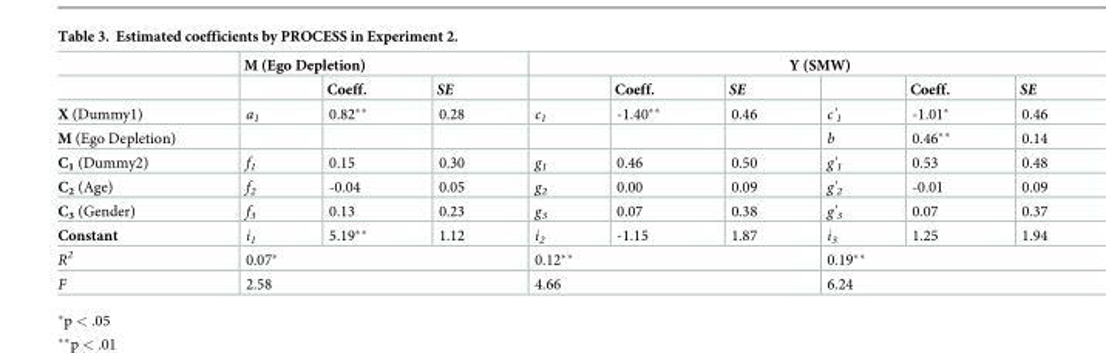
<table><thead><tr><td rowspan="2"></td><td colspan="3">M (Ego Depletion)</td><td colspan="6">Y (SMW)</td></tr><tr><td></td><td>Coeff.</td><td>SE</td><td></td><td>Coeff.</td><td>SE</td><td></td><td>Coeff.</td><td>SE</td></tr></thead><tbody><tr><td>X (Dummy1)</td><td>a<sub>1</sub></td><td>0.82**</td><td>0.28</td><td>c<sub>1</sub></td><td>-1.40**</td><td>0.46</td><td>c&#x27;<sub>1</sub></td><td>-1.01*</td><td>0.46</td></tr><tr><td>M (Ego Depletion)</td><td></td><td></td><td></td><td></td><td></td><td></td><td>b</td><td>0.46**</td><td>0.14</td></tr><tr><td>C<sub>1</sub> (Dummy2)</td><td>f<sub>1</sub></td><td>0.15</td><td>0.30</td><td>g<sub>1</sub></td><td>0.46</td><td>0.50</td><td>g&#x27;<sub>1</sub></td><td>0.53</td><td>0.48</td></tr><tr><td>C<sub>2</sub> (Age)</td><td>f<sub>2</sub></td><td>-0.04</td><td>0.05</td><td>g<sub>2</sub></td><td>0.00</td><td>0.09</td><td>g&#x27;<sub>2</sub></td><td>-0.01</td><td>0.09</td></tr><tr><td>C<sub>3</sub> (Gender)</td><td>f<sub>3</sub></td><td>0.13</td><td>0.23</td><td>g<sub>3</sub></td><td>0.07</td><td>0.38</td><td>g&#x27;<sub>3</sub></td><td>0.07</td><td>0.37</td></tr><tr><td>Constant</td><td>i<sub>1</sub></td><td>5.19**</td><td>1.12</td><td>i<sub>2</sub></td><td>-1.15</td><td>1.87</td><td>i<sub>3</sub></td><td>1.25</td><td>1.94</td></tr><tr><td>R<sup>2</sup></td><td colspan="3">0.07*</td><td colspan="3">0.12**</td><td colspan="3">0.19**</td></tr><tr><td>F</td><td colspan="3">2.58</td><td colspan="3">4.66</td><td colspan="3">6.24</td></tr></tbody></table>